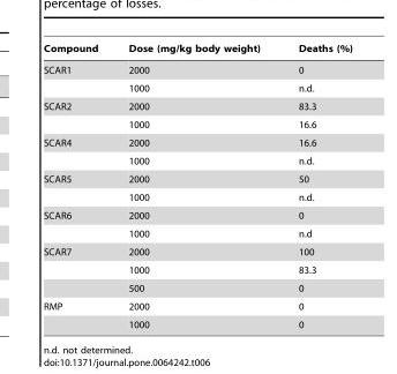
<table><thead><tr><td>Compound</td><td>Dose (mg/kg body weight)</td><td>Deaths (%)</td></tr></thead><tbody><tr><td rowspan="2">SCAR1</td><td>2000</td><td>0</td></tr><tr><td>1000</td><td>n.d.</td></tr><tr><td rowspan="2">SCAR2</td><td>2000</td><td>83.3</td></tr><tr><td>1000</td><td>16.6</td></tr><tr><td rowspan="2">SCAR4</td><td>2000</td><td>16.6</td></tr><tr><td>1000</td><td>n.d.</td></tr><tr><td rowspan="2">SCAR5</td><td>2000</td><td>50</td></tr><tr><td>1000</td><td>n.d.</td></tr><tr><td rowspan="2">SCAR6</td><td>2000</td><td>0</td></tr><tr><td>1000</td><td>n.d</td></tr><tr><td rowspan="3">SCAR7</td><td>2000</td><td>100</td></tr><tr><td>1000</td><td>83.3</td></tr><tr><td>500</td><td>0</td></tr><tr><td rowspan="2">RMP</td><td>2000</td><td>0</td></tr><tr><td>1000</td><td>0</td></tr></tbody></table>